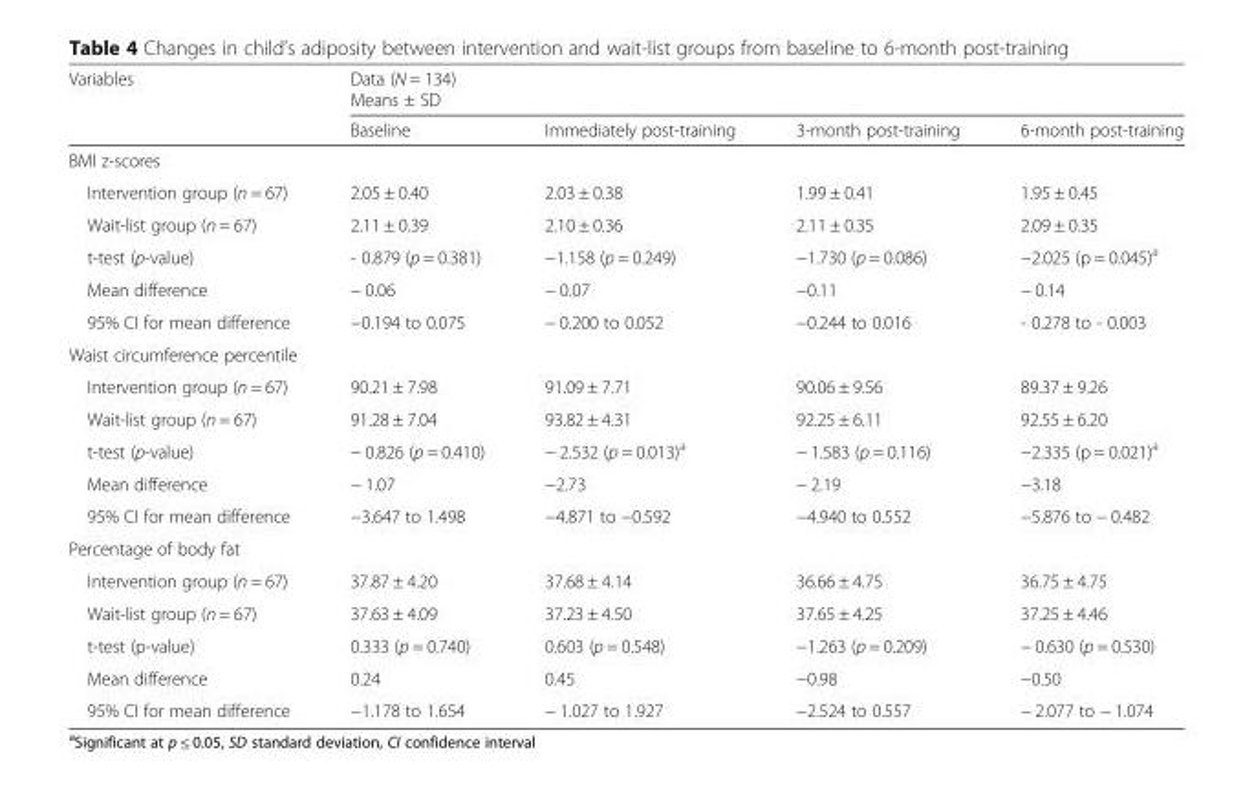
<table><thead><tr><td rowspan="2">Variables</td><td colspan="4">Data (N = 134) Means ± SD</td></tr><tr><td>Baseline</td><td>Immediately post-training</td><td>3-month post-training</td><td>6-month post-training</td></tr></thead><tbody><tr><td colspan="5">BMI z-scores</td></tr><tr><td>Intervention group (n = 67)</td><td>2.05 ± 0.40</td><td>2.03 ± 0.38</td><td>1.99 ± 0.41</td><td>1.95 ± 0.45</td></tr><tr><td>Wait-list group (n = 67)</td><td>2.11 ± 0.39</td><td>2.10 ± 0.36</td><td>2.11 ± 0.35</td><td>2.09 ± 0.35</td></tr><tr><td>t-test (p-value)</td><td>- 0.879 (p = 0.381)</td><td>−1.158 (p = 0.249)</td><td>−1.730 (p = 0.086)</td><td>−2.025 (p = 0.045)<sup>a</sup></td></tr><tr><td>Mean difference</td><td>− 0.06</td><td>− 0.07</td><td>−0.11</td><td>− 0.14</td></tr><tr><td>95% CI for mean difference</td><td>−0.194 to 0.075</td><td>− 0.200 to 0.052</td><td>−0.244 to 0.016</td><td>- 0.278 to - 0.003</td></tr><tr><td colspan="5">Waist circumference percentile</td></tr><tr><td>Intervention group (n = 67)</td><td>90.21 ± 7.98</td><td>91.09 ± 7.71</td><td>90.06 ± 9.56</td><td>89.37 ± 9.26</td></tr><tr><td>Wait-list group (n = 67)</td><td>91.28 ± 7.04</td><td>93.82 ± 4.31</td><td>92.25 ± 6.11</td><td>92.55 ± 6.20</td></tr><tr><td>t-test (p-value)</td><td>− 0.826 (p = 0.410)</td><td>− 2.532 (p = 0.013)<sup>a</sup></td><td>− 1.583 (p = 0.116)</td><td>−2.335 (p = 0.021)<sup>a</sup></td></tr><tr><td>Mean difference</td><td>− 1.07</td><td>−2.73</td><td>− 2.19</td><td>−3.18</td></tr><tr><td>95% CI for mean difference</td><td>−3.647 to 1.498</td><td>−4.871 to −0.592</td><td>−4.940 to 0.552</td><td>−5.876 to − 0.482</td></tr><tr><td colspan="5">Percentage of body fat</td></tr><tr><td>Intervention group (n = 67)</td><td>37.87 ± 4.20</td><td>37.68 ± 4.14</td><td>36.66 ± 4.75</td><td>36.75 ± 4.75</td></tr><tr><td>Wait-list group (n = 67)</td><td>37.63 ± 4.09</td><td>37.23 ± 4.50</td><td>37.65 ± 4.25</td><td>37.25 ± 4.46</td></tr><tr><td>t-test (p-value)</td><td>0.333 (p = 0.740)</td><td>0.603 (p = 0.548)</td><td>−1.263 (p = 0.209)</td><td>− 0.630 (p = 0.530)</td></tr><tr><td>Mean difference</td><td>0.24</td><td>0.45</td><td>−0.98</td><td>−0.50</td></tr><tr><td>95% CI for mean difference</td><td>−1.178 to 1.654</td><td>− 1.027 to 1.927</td><td>−2.524 to 0.557</td><td>− 2.077 to − 1.074</td></tr></tbody></table>